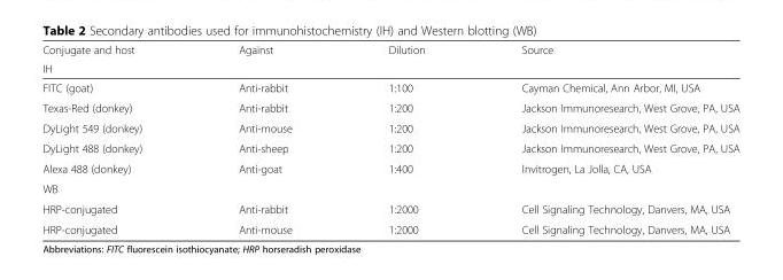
<table><thead><tr><td rowspan="2">Conjugate and host IH</td><td rowspan="2">Against</td><td rowspan="2">Dilution</td><td rowspan="2">Source</td></tr><tr></tr></thead><tbody><tr><td>FITC (goat)</td><td>Anti-rabbit</td><td>1:100</td><td>Cayman Chemical, Ann Arbor, MI, USA</td></tr><tr><td>Texas-Red (donkey)</td><td>Anti-rabbit</td><td>1:200</td><td>Jackson Immunoresearch, West Grove, PA, USA</td></tr><tr><td>DyLight 549 (donkey)</td><td>Anti-mouse</td><td>1:200</td><td>Jackson Immunoresearch, West Grove, PA, USA</td></tr><tr><td>DyLight 488 (donkey)</td><td>Anti-sheep</td><td>1:200</td><td>Jackson Immunoresearch, West Grove, PA, USA</td></tr><tr><td>Alexa 488 (donkey)</td><td>Anti-goat</td><td>1:400</td><td>Invitrogen, La Jolla, CA, USA</td></tr><tr><td colspan="4">WB</td></tr><tr><td>HRP-conjugated</td><td>Anti-rabbit</td><td>1:2000</td><td>Cell Signaling Technology, Danvers, MA, USA</td></tr><tr><td>HRP-conjugated</td><td>Anti-mouse</td><td>1:2000</td><td>Cell Signaling Technology, Danvers, MA, USA</td></tr></tbody></table>